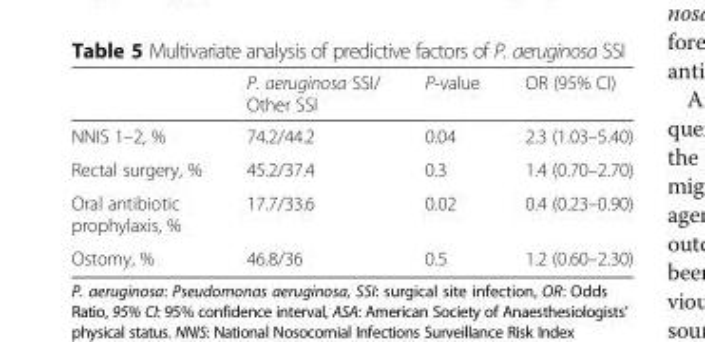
<table><thead><tr><td></td><td>P. aeruginosa SSI/ Other SSI</td><td>P-value</td><td>OR (95% CI)</td></tr></thead><tbody><tr><td>NNIS 1–2, %</td><td>74.2/44.2</td><td>0.04</td><td>2.3 (1.03–5.40)</td></tr><tr><td>Rectal surgery, %</td><td>45.2/37.4</td><td>0.3</td><td>1.4 (0.70–2.70)</td></tr><tr><td>Oral antibiotic prophylaxis, %</td><td>17.7/33.6</td><td>0.02</td><td>0.4 (0.23–0.90)</td></tr><tr><td>Ostomy, %</td><td>46.8/36</td><td>0.5</td><td>1.2 (0.60–2.30)</td></tr></tbody></table>